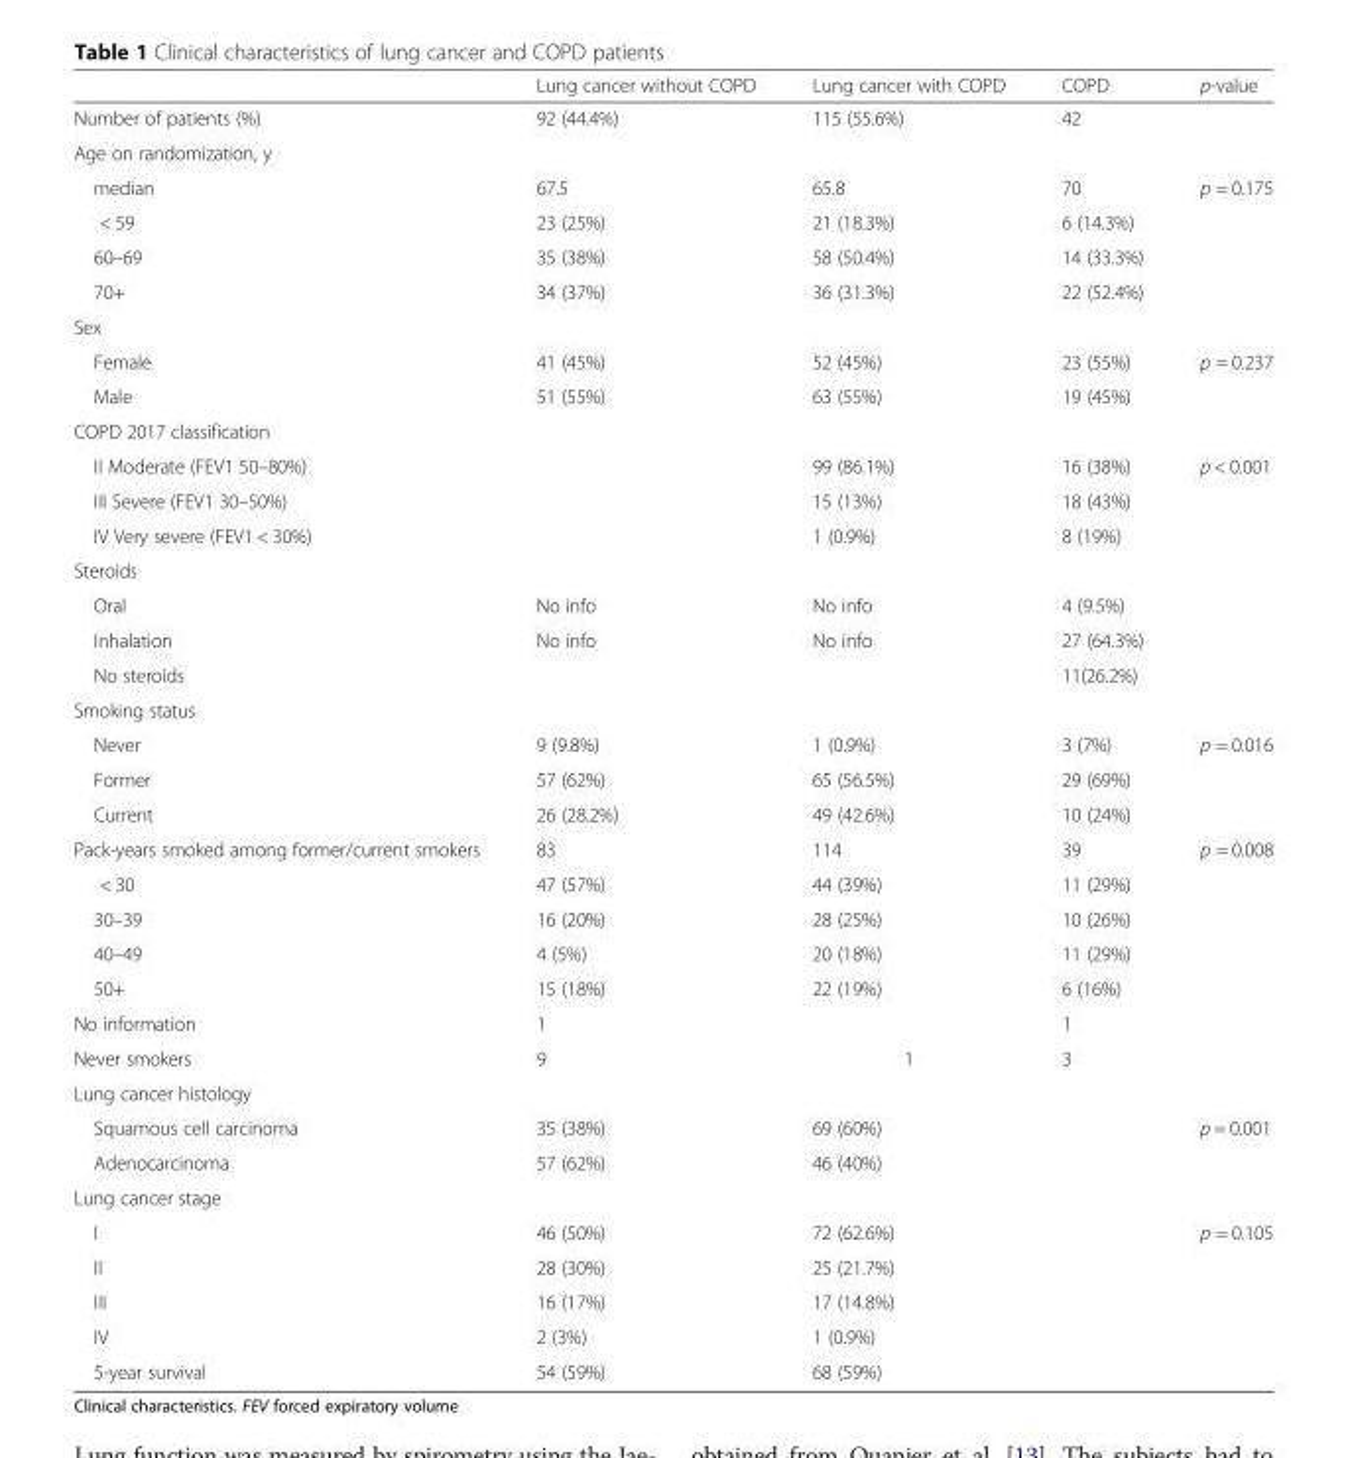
<table><thead><tr><td></td><td>Lung cancer without COPD</td><td>Lung cancer with COPD</td><td>COPD</td><td>p-value</td></tr></thead><tbody><tr><td>Number of patients (%)</td><td>92 (44.4%)</td><td>115 (55.6%)</td><td>42</td><td></td></tr><tr><td colspan="5">Age on randomization, y</td></tr><tr><td>median</td><td>67.5</td><td>65.8</td><td>70</td><td rowspan="4">p = 0.175</td></tr><tr><td>&lt; 59</td><td>23 (25%)</td><td>21 (18.3%)</td><td>6 (14.3%)</td></tr><tr><td>60–69</td><td>35 (38%)</td><td>58 (50.4%)</td><td>14 (33.3%)</td></tr><tr><td>70+</td><td>34 (37%)</td><td>36 (31.3%)</td><td>22 (52.4%)</td></tr><tr><td colspan="5">Sex</td></tr><tr><td>Female</td><td>41 (45%)</td><td>52 (45%)</td><td>23 (55%)</td><td rowspan="2">p = 0.237</td></tr><tr><td>Male</td><td>51 (55%)</td><td>63 (55%)</td><td>19 (45%)</td></tr><tr><td colspan="5">COPD 2017 classification</td></tr><tr><td>II Moderate (FEV1 50–80%)</td><td></td><td>99 (86.1%)</td><td>16 (38%)</td><td rowspan="3">p &lt; 0.001</td></tr><tr><td>III Severe (FEV1 30–50%)</td><td></td><td>15 (13%)</td><td>18 (43%)</td></tr><tr><td>IV Very severe (FEV1 &lt; 30%)</td><td></td><td>1 (0.9%)</td><td>8 (19%)</td></tr><tr><td colspan="5">Steroids</td></tr><tr><td>Oral</td><td>No info</td><td>No info</td><td>4 (9.5%)</td><td></td></tr><tr><td>Inhalation</td><td>No info</td><td>No info</td><td>27 (64.3%)</td><td></td></tr><tr><td>No steroids</td><td></td><td></td><td>11(26.2%)</td><td></td></tr><tr><td colspan="5">Smoking status</td></tr><tr><td>Never</td><td>9 (9.8%)</td><td>1 (0.9%)</td><td>3 (7%)</td><td rowspan="3">p = 0.016</td></tr><tr><td>Former</td><td>57 (62%)</td><td>65 (56.5%)</td><td>29 (69%)</td></tr><tr><td>Current</td><td>26 (28.2%)</td><td>49 (42.6%)</td><td>10 (24%)</td></tr><tr><td>Pack-years smoked among former/current smokers</td><td>83</td><td>114</td><td>39</td><td>p = 0.008</td></tr><tr><td>&lt; 30</td><td>47 (57%)</td><td>44 (39%)</td><td>11 (29%)</td><td></td></tr><tr><td>30–39</td><td>16 (20%)</td><td>28 (25%)</td><td>10 (26%)</td><td></td></tr><tr><td>40–49</td><td>4 (5%)</td><td>20 (18%)</td><td>11 (29%)</td><td></td></tr><tr><td>50+</td><td>15 (18%)</td><td>22 (19%)</td><td>6 (16%)</td><td></td></tr><tr><td>No information</td><td>1</td><td></td><td>1</td><td></td></tr><tr><td>Never smokers</td><td>9</td><td>1</td><td>3</td><td></td></tr><tr><td colspan="5">Lung cancer histology</td></tr><tr><td>Squamous cell carcinoma</td><td>35 (38%)</td><td>69 (60%)</td><td></td><td rowspan="2">p = 0.001</td></tr><tr><td>Adenocarcinoma</td><td>57 (62%)</td><td>46 (40%)</td><td></td></tr><tr><td colspan="5">Lung cancer stage</td></tr><tr><td>I</td><td>46 (50%)</td><td>72 (62.6%)</td><td></td><td rowspan="5">p = 0.105</td></tr><tr><td>II</td><td>28 (30%)</td><td>25 (21.7%)</td><td></td></tr><tr><td>III</td><td>16 (17%)</td><td>17 (14.8%)</td><td></td></tr><tr><td>IV</td><td>2 (3%)</td><td>1 (0.9%)</td><td></td></tr><tr><td>5-year survival</td><td>54 (59%)</td><td>68 (59%)</td><td></td></tr></tbody></table>